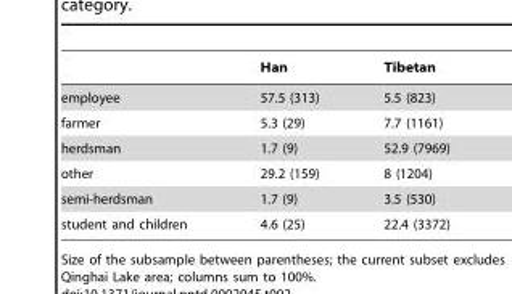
<table><thead><tr><td></td><td>Han</td><td>Tibetan</td></tr></thead><tbody><tr><td>employee</td><td>57.5 (313)</td><td>5.5 (823)</td></tr><tr><td>farmer</td><td>5.3 (29)</td><td>7.7 (1161)</td></tr><tr><td>herdsman</td><td>1.7 (9)</td><td>52.9 (7969)</td></tr><tr><td>other</td><td>29.2 (159)</td><td>8 (1204)</td></tr><tr><td>semi-herdsman</td><td>1.7 (9)</td><td>3.5 (530)</td></tr><tr><td>student and children</td><td>4.6 (25)</td><td>22.4 (3372)</td></tr></tbody></table>